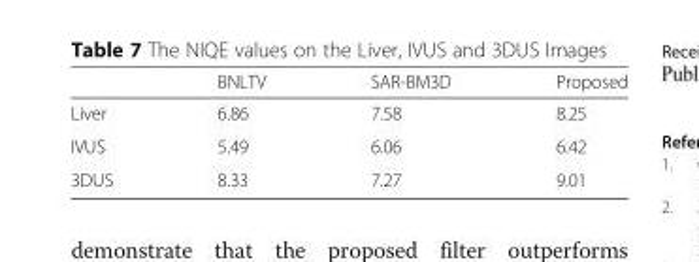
<table><thead><tr><td></td><td>BNLTV</td><td>SAR-BM3D</td><td>Proposed</td></tr></thead><tbody><tr><td>Liver</td><td>6.86</td><td>7.58</td><td>8.25</td></tr><tr><td>IVUS</td><td>5.49</td><td>6.06</td><td>6.42</td></tr><tr><td>3DUS</td><td>8.33</td><td>7.27</td><td>9.01</td></tr></tbody></table>